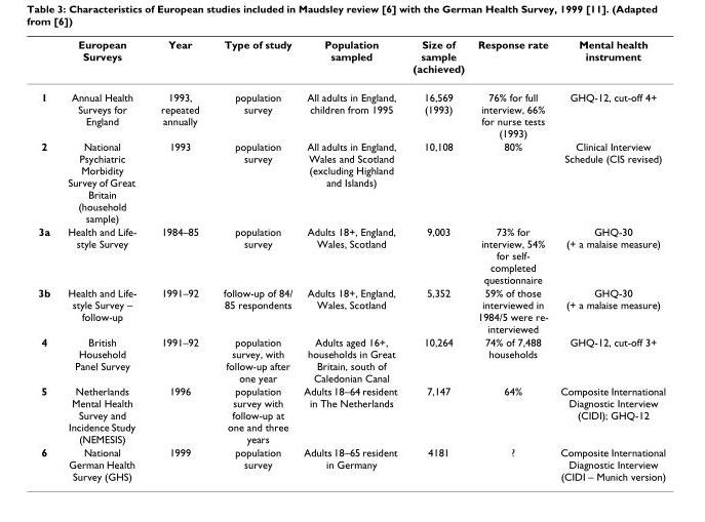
<table><thead><tr><td></td><td>European Surveys</td><td>Year</td><td>Type of study</td><td>Population sampled</td><td>Size of sample (achieved)</td><td>Response rate</td><td>Mental health instrument</td></tr></thead><tbody><tr><td>1</td><td>Annual Health Surveys for England</td><td>1993, repeated annually</td><td>population survey</td><td>All adults in England, children from 1995</td><td>16,569 (1993)</td><td>76% for full interview, 66% for nurse tests (1993)</td><td>GHQ-12, cut-off 4+</td></tr><tr><td>2</td><td>National Psychiatric Morbidity Survey of Great Britain (household sample)</td><td>1993</td><td>population survey</td><td>All adults in England, Wales and Scotland (excluding Highland and Islands)</td><td>10,108</td><td>80%</td><td>Clinical Interview Schedule (CIS revised)</td></tr><tr><td>3a</td><td>Health and Life- style Survey</td><td>1984–85</td><td>population survey</td><td>Adults 18+, England, Wales, Scotland</td><td>9,003</td><td>73% for interview, 54% for self- completed questionnaire</td><td>GHQ-30 (+ a malaise measure)</td></tr><tr><td>3b</td><td>Health and Life- style Survey – follow-up</td><td>1991–92</td><td>follow-up of 84/ 85 respondents</td><td>Adults 18+, England, Wales, Scotland</td><td>5,352</td><td>59% of those interviewed in 1984/5 were re- interviewed</td><td>GHQ-30 (+ a malaise measure)</td></tr><tr><td>4</td><td>British Household Panel Survey</td><td>1991–92</td><td>population survey, with follow-up after one year</td><td>Adults aged 16+, households in Great Britain, south of Caledonian Canal</td><td>10,264</td><td>74% of 7,488 households</td><td>GHQ-12, cut-off 3+</td></tr><tr><td>5</td><td>Netherlands Mental Health Survey and Incidence Study (NEMESIS)</td><td>1996</td><td>population survey with follow-up at one and three years</td><td>Adults 18–64 resident in The Netherlands</td><td>7,147</td><td>64%</td><td>Composite International Diagnostic Interview (CIDI); GHQ-12</td></tr><tr><td>6</td><td>National German Health Survey (GHS)</td><td>1999</td><td>population survey</td><td>Adults 18–65 resident in Germany</td><td>4181</td><td>?</td><td>Composite International Diagnostic Interview (CIDI – Munich version)</td></tr></tbody></table>